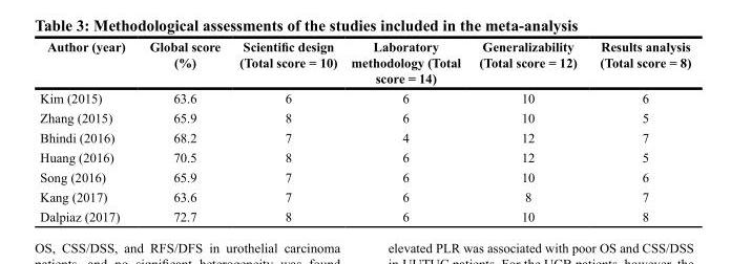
<table><thead><tr><td>Author (year)</td><td>Global score (%)</td><td>Scientific design (Total score = 10)</td><td>Laboratory methodology (Total score = 14)</td><td>Generalizability (Total score = 12)</td><td>Results analysis (Total score = 8)</td></tr></thead><tbody><tr><td>Kim (2015)</td><td>63.6</td><td>6</td><td>6</td><td>10</td><td>6</td></tr><tr><td>Zhang (2015)</td><td>65.9</td><td>8</td><td>6</td><td>10</td><td>5</td></tr><tr><td>Bhindi (2016)</td><td>68.2</td><td>7</td><td>4</td><td>12</td><td>7</td></tr><tr><td>Huang (2016)</td><td>70.5</td><td>8</td><td>6</td><td>12</td><td>5</td></tr><tr><td>Song (2016)</td><td>65.9</td><td>7</td><td>6</td><td>10</td><td>6</td></tr><tr><td>Kang (2017)</td><td>63.6</td><td>7</td><td>6</td><td>8</td><td>7</td></tr><tr><td>Dalpiaz (2017)</td><td>72.7</td><td>8</td><td>6</td><td>10</td><td>8</td></tr></tbody></table>